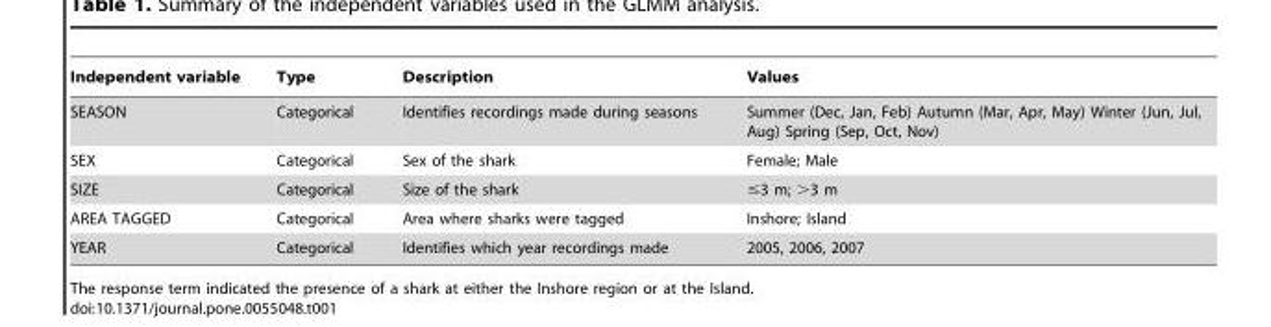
<table><thead><tr><td>Independent variable</td><td>Type</td><td>Description</td><td>Values</td></tr></thead><tbody><tr><td>SEASON</td><td>Categorical</td><td>Identifies recordings made during seasons</td><td>Summer (Dec, Jan, Feb) Autumn (Mar, Apr, May) Winter (Jun, Jul, Aug) Spring (Sep, Oct, Nov)</td></tr><tr><td>SEX</td><td>Categorical</td><td>Sex of the shark</td><td>Female; Male</td></tr><tr><td>SIZE</td><td>Categorical</td><td>Size of the shark</td><td>≤3 m; &gt;3 m</td></tr><tr><td>AREA TAGGED</td><td>Categorical</td><td>Area where sharks were tagged</td><td>Inshore; Island</td></tr><tr><td>YEAR</td><td>Categorical</td><td>Identifies which year recordings made</td><td>2005, 2006, 2007</td></tr></tbody></table>